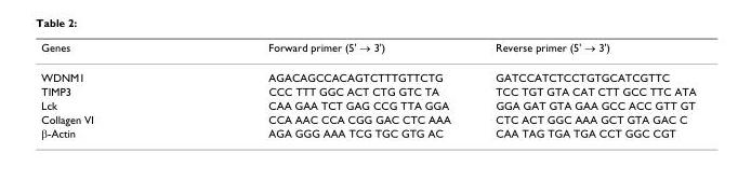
<table><thead><tr><td>Genes</td><td>Forward primer (5&#x27; → 3&#x27;)</td><td>Reverse primer (5&#x27; → 3&#x27;)</td></tr></thead><tbody><tr><td>WDNM1</td><td>AGACAGCCACAGTCTTTGTTCTG</td><td>GATCCATCTCCTGTGCATCGTTC</td></tr><tr><td>TIMP3</td><td>CCC TTT GGC ACT CTG GTC TA</td><td>TCC TGT GTA CAT CTT GCC TTC ATA</td></tr><tr><td>Lck</td><td>CAA GAA TCT GAG CCG TTA GGA</td><td>GGA GAT GTA GAA GCC ACC GTT GT</td></tr><tr><td>Collagen VI</td><td>CCA AAC CCA CGG GAC CTC AAA</td><td>CTC ACT GGC AAA GCT GTA GAC C</td></tr><tr><td>β-Actin</td><td>AGA GGG AAA TCG TGC GTG AC</td><td>CAA TAG TGA TGA CCT GGC CGT</td></tr></tbody></table>